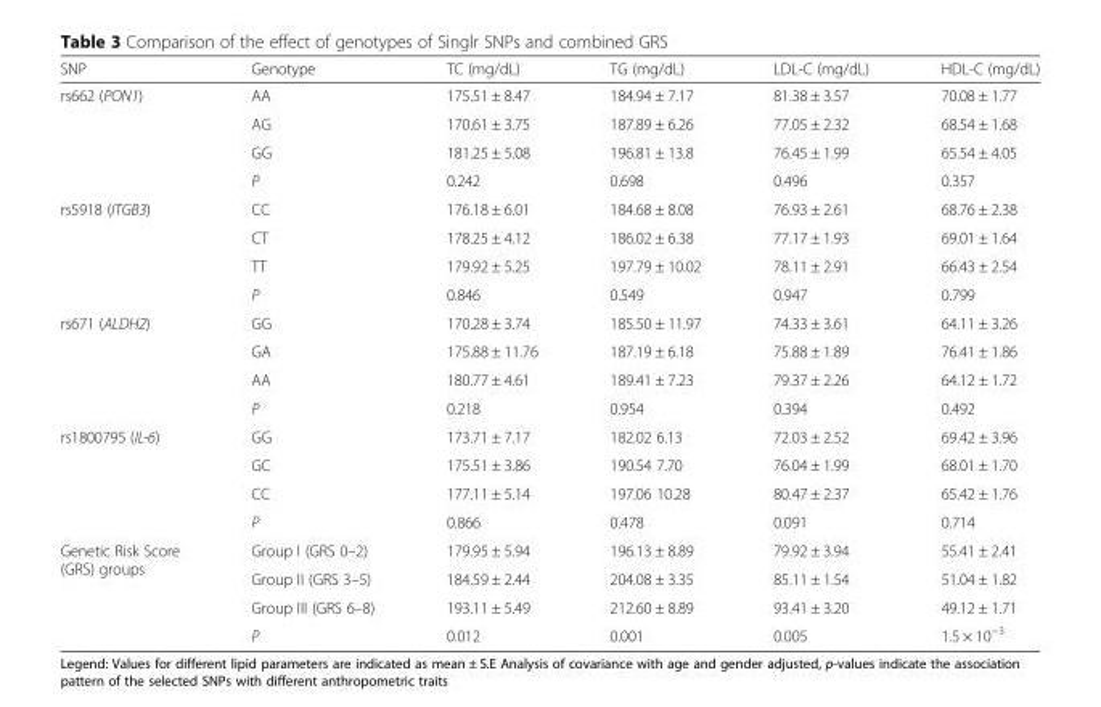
<table><thead><tr><td>SNP</td><td>Genotype</td><td>TC (mg/dL)</td><td>TG (mg/dL)</td><td>LDL-C (mg/dL)</td><td>HDL-C (mg/dL)</td></tr></thead><tbody><tr><td rowspan="4">rs662 (PON1)</td><td>AA</td><td>175.51 ± 8.47</td><td>184.94 ± 7.17</td><td>81.38 ± 3.57</td><td>70.08 ± 1.77</td></tr><tr><td>AG</td><td>170.61 ± 3.75</td><td>187.89 ± 6.26</td><td>77.05 ± 2.32</td><td>68.54 ± 1.68</td></tr><tr><td>GG</td><td>181.25 ± 5.08</td><td>196.81 ± 13.8</td><td>76.45 ± 1.99</td><td>65.54 ± 4.05</td></tr><tr><td>P</td><td>0.242</td><td>0.698</td><td>0.496</td><td>0.357</td></tr><tr><td rowspan="4">rs5918 (ITGB3)</td><td>CC</td><td>176.18 ± 6.01</td><td>184.68 ± 8.08</td><td>76.93 ± 2.61</td><td>68.76 ± 2.38</td></tr><tr><td>CT</td><td>178.25 ± 4.12</td><td>186.02 ± 6.38</td><td>77.17 ± 1.93</td><td>69.01 ± 1.64</td></tr><tr><td>TT</td><td>179.92 ± 5.25</td><td>197.79 ± 10.02</td><td>78.11 ± 2.91</td><td>66.43 ± 2.54</td></tr><tr><td>P</td><td>0.846</td><td>0.549</td><td>0.947</td><td>0.799</td></tr><tr><td rowspan="4">rs671 (ALDH2)</td><td>GG</td><td>170.28 ± 3.74</td><td>185.50 ± 11.97</td><td>74.33 ± 3.61</td><td>64.11 ± 3.26</td></tr><tr><td>GA</td><td>175.88 ± 11.76</td><td>187.19 ± 6.18</td><td>75.88 ± 1.89</td><td>76.41 ± 1.86</td></tr><tr><td>AA</td><td>180.77 ± 4.61</td><td>189.41 ± 7.23</td><td>79.37 ± 2.26</td><td>64.12 ± 1.72</td></tr><tr><td>P</td><td>0.218</td><td>0.954</td><td>0.394</td><td>0.492</td></tr><tr><td rowspan="4">rs1800795 (IL-6)</td><td>GG</td><td>173.71 ± 7.17</td><td>182.02 6.13</td><td>72.03 ± 2.52</td><td>69.42 ± 3.96</td></tr><tr><td>GC</td><td>175.51 ± 3.86</td><td>190.54 7.70</td><td>76.04 ± 1.99</td><td>68.01 ± 1.70</td></tr><tr><td>CC</td><td>177.11 ± 5.14</td><td>197.06 10.28</td><td>80.47 ± 2.37</td><td>65.42 ± 1.76</td></tr><tr><td>P</td><td>0.866</td><td>0.478</td><td>0.091</td><td>0.714</td></tr><tr><td rowspan="4">Genetic Risk Score (GRS) groups</td><td>Group I (GRS 0–2)</td><td>179.95 ± 5.94</td><td>196.13 ± 8.89</td><td>79.92 ± 3.94</td><td>55.41 ± 2.41</td></tr><tr><td>Group II (GRS 3–5)</td><td>184.59 ± 2.44</td><td>204.08 ± 3.35</td><td>85.11 ± 1.54</td><td>51.04 ± 1.82</td></tr><tr><td>Group III (GRS 6–8)</td><td>193.11 ± 5.49</td><td>212.60 ± 8.89</td><td>93.41 ± 3.20</td><td>49.12 ± 1.71</td></tr><tr><td>P</td><td>0.012</td><td>0.001</td><td>0.005</td><td>1.5 × 10<sup>−3</sup></td></tr></tbody></table>